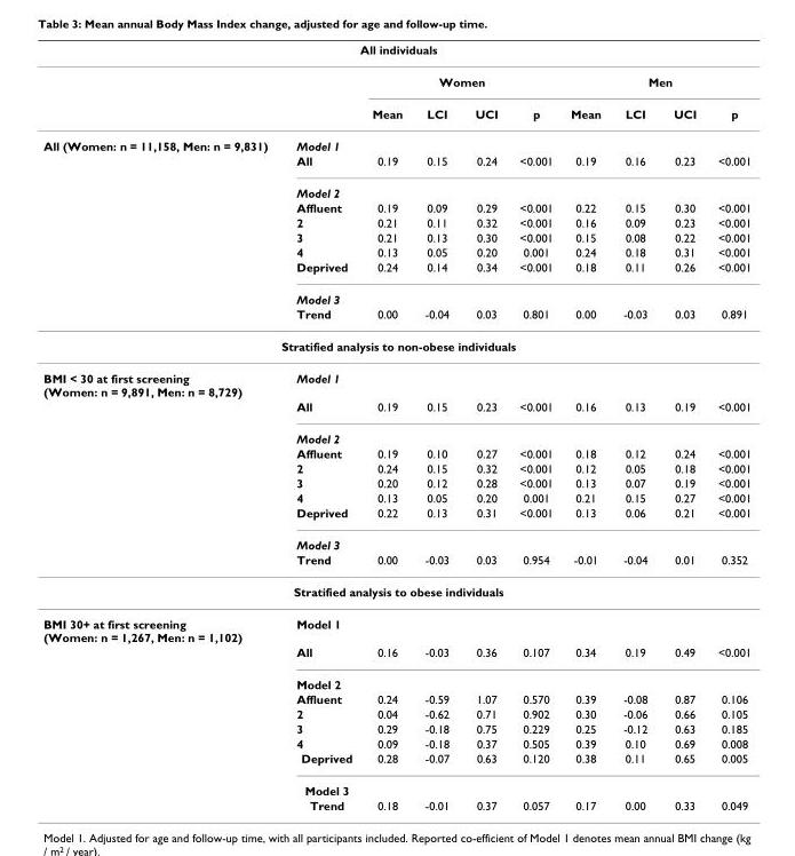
<table><thead><tr><td colspan="10">All individuals</td></tr><tr><td rowspan="2"></td><td rowspan="2"></td><td colspan="4">Women</td><td colspan="4">Men</td></tr><tr><td>Mean</td><td>LCI</td><td>UCI</td><td>p</td><td>Mean</td><td>LCI</td><td>UCI</td><td>p</td></tr></thead><tbody><tr><td rowspan="10">All (Women: n = 11,158, Men: n = 9,831)</td><td>Model 1</td><td></td><td></td><td></td><td></td><td></td><td></td><td></td><td></td></tr><tr><td>All</td><td>0.19</td><td>0.15</td><td>0.24</td><td>&lt;0.001</td><td>0.19</td><td>0.16</td><td>0.23</td><td>&lt;0.001</td></tr><tr><td>Model 2</td><td></td><td></td><td></td><td></td><td></td><td></td><td></td><td></td></tr><tr><td>Affluent</td><td>0.19</td><td>0.09</td><td>0.29</td><td>&lt;0.001</td><td>0.22</td><td>0.15</td><td>0.30</td><td>&lt;0.001</td></tr><tr><td>2</td><td>0.21</td><td>0.11</td><td>0.32</td><td>&lt;0.001</td><td>0.16</td><td>0.09</td><td>0.23</td><td>&lt;0.001</td></tr><tr><td>3</td><td>0.21</td><td>0.13</td><td>0.30</td><td>&lt;0.001</td><td>0.15</td><td>0.08</td><td>0.22</td><td>&lt;0.001</td></tr><tr><td>4</td><td>0.13</td><td>0.05</td><td>0.20</td><td>0.001</td><td>0.24</td><td>0.18</td><td>0.31</td><td>&lt;0.001</td></tr><tr><td>Deprived</td><td>0.24</td><td>0.14</td><td>0.34</td><td>&lt;0.001</td><td>0.18</td><td>0.11</td><td>0.26</td><td>&lt;0.001</td></tr><tr><td>Model 3</td><td></td><td></td><td></td><td></td><td></td><td></td><td></td><td></td></tr><tr><td>Trend</td><td>0.00</td><td>-0.04</td><td>0.03</td><td>0.801</td><td>0.00</td><td>-0.03</td><td>0.03</td><td>0.891</td></tr><tr><td colspan="10">Stratified analysis to non-obese individuals</td></tr><tr><td rowspan="10">BMI &lt; 30 at first screening (Women: n = 9,891, Men: n = 8,729)</td><td>Model 1</td><td></td><td></td><td></td><td></td><td></td><td></td><td></td><td></td></tr><tr><td>All</td><td>0.19</td><td>0.15</td><td>0.23</td><td>&lt;0.001</td><td>0.16</td><td>0.13</td><td>0.19</td><td>&lt;0.001</td></tr><tr><td>Model 2</td><td></td><td></td><td></td><td></td><td></td><td></td><td></td><td></td></tr><tr><td>Affluent</td><td>0.19</td><td>0.10</td><td>0.27</td><td>&lt;0.001</td><td>0.18</td><td>0.12</td><td>0.24</td><td>&lt;0.001</td></tr><tr><td>2</td><td>0.24</td><td>0.15</td><td>0.32</td><td>&lt;0.001</td><td>0.12</td><td>0.05</td><td>0.18</td><td>&lt;0.001</td></tr><tr><td>3</td><td>0.20</td><td>0.12</td><td>0.28</td><td>&lt;0.001</td><td>0.13</td><td>0.07</td><td>0.19</td><td>&lt;0.001</td></tr><tr><td>4</td><td>0.13</td><td>0.05</td><td>0.20</td><td>0.001</td><td>0.21</td><td>0.15</td><td>0.27</td><td>&lt;0.001</td></tr><tr><td>Deprived</td><td>0.22</td><td>0.13</td><td>0.31</td><td>&lt;0.001</td><td>0.13</td><td>0.06</td><td>0.21</td><td>&lt;0.001</td></tr><tr><td>Model 3</td><td></td><td></td><td></td><td></td><td></td><td></td><td></td><td></td></tr><tr><td>Trend</td><td>0.00</td><td>-0.03</td><td>0.03</td><td>0.954</td><td>-0.01</td><td>-0.04</td><td>0.01</td><td>0.352</td></tr><tr><td colspan="10">Stratified analysis to obese individuals</td></tr><tr><td rowspan="10">BMI 30+ at first screening (Women: n = 1,267, Men: n = 1,102)</td><td>Model 1</td><td></td><td></td><td></td><td></td><td></td><td></td><td></td><td></td></tr><tr><td>All</td><td>0.16</td><td>-0.03</td><td>0.36</td><td>0.107</td><td>0.34</td><td>0.19</td><td>0.49</td><td>&lt;0.001</td></tr><tr><td>Model 2</td><td></td><td></td><td></td><td></td><td></td><td></td><td></td><td></td></tr><tr><td>Affluent</td><td>0.24</td><td>-0.59</td><td>1.07</td><td>0.570</td><td>0.39</td><td>-0.08</td><td>0.87</td><td>0.106</td></tr><tr><td>2</td><td>0.04</td><td>-0.62</td><td>0.71</td><td>0.902</td><td>0.30</td><td>-0.06</td><td>0.66</td><td>0.105</td></tr><tr><td>3</td><td>0.29</td><td>-0.18</td><td>0.75</td><td>0.229</td><td>0.25</td><td>-0.12</td><td>0.63</td><td>0.185</td></tr><tr><td>4</td><td>0.09</td><td>-0.18</td><td>0.37</td><td>0.505</td><td>0.39</td><td>0.10</td><td>0.69</td><td>0.008</td></tr><tr><td>Deprived</td><td>0.28</td><td>-0.07</td><td>0.63</td><td>0.120</td><td>0.38</td><td>0.11</td><td>0.65</td><td>0.005</td></tr><tr><td>Model 3</td><td></td><td></td><td></td><td></td><td></td><td></td><td></td><td></td></tr><tr><td>Trend</td><td>0.18</td><td>-0.01</td><td>0.37</td><td>0.057</td><td>0.17</td><td>0.00</td><td>0.33</td><td>0.049</td></tr></tbody></table>